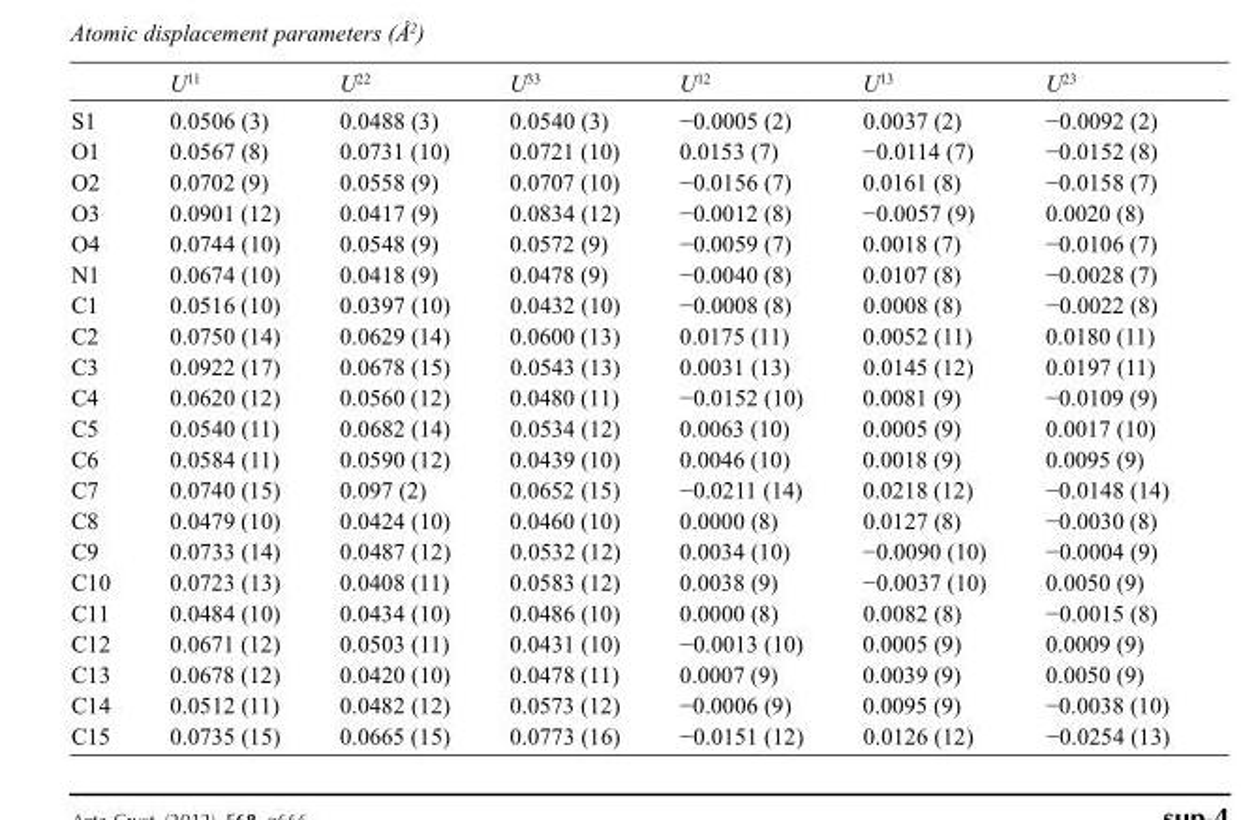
<table><thead><tr><td></td><td>U<sup>11</sup></td><td>U<sup>22</sup></td><td>U<sup>33</sup></td><td>U<sup>12</sup></td><td>U<sup>13</sup></td><td>U<sup>23</sup></td></tr></thead><tbody><tr><td>S1</td><td>0.0506 (3)</td><td>0.0488 (3)</td><td>0.0540 (3)</td><td>−0.0005 (2)</td><td>0.0037 (2)</td><td>−0.0092 (2)</td></tr><tr><td>O1</td><td>0.0567 (8)</td><td>0.0731 (10)</td><td>0.0721 (10)</td><td>0.0153 (7)</td><td>−0.0114 (7)</td><td>−0.0152 (8)</td></tr><tr><td>O2</td><td>0.0702 (9)</td><td>0.0558 (9)</td><td>0.0707 (10)</td><td>−0.0156 (7)</td><td>0.0161 (8)</td><td>−0.0158 (7)</td></tr><tr><td>O3</td><td>0.0901 (12)</td><td>0.0417 (9)</td><td>0.0834 (12)</td><td>−0.0012 (8)</td><td>−0.0057 (9)</td><td>0.0020 (8)</td></tr><tr><td>O4</td><td>0.0744 (10)</td><td>0.0548 (9)</td><td>0.0572 (9)</td><td>−0.0059 (7)</td><td>0.0018 (7)</td><td>−0.0106 (7)</td></tr><tr><td>N1</td><td>0.0674 (10)</td><td>0.0418 (9)</td><td>0.0478 (9)</td><td>−0.0040 (8)</td><td>0.0107 (8)</td><td>−0.0028 (7)</td></tr><tr><td>C1</td><td>0.0516 (10)</td><td>0.0397 (10)</td><td>0.0432 (10)</td><td>−0.0008 (8)</td><td>0.0008 (8)</td><td>−0.0022 (8)</td></tr><tr><td>C2</td><td>0.0750 (14)</td><td>0.0629 (14)</td><td>0.0600 (13)</td><td>0.0175 (11)</td><td>0.0052 (11)</td><td>0.0180 (11)</td></tr><tr><td>C3</td><td>0.0922 (17)</td><td>0.0678 (15)</td><td>0.0543 (13)</td><td>0.0031 (13)</td><td>0.0145 (12)</td><td>0.0197 (11)</td></tr><tr><td>C4</td><td>0.0620 (12)</td><td>0.0560 (12)</td><td>0.0480 (11)</td><td>−0.0152 (10)</td><td>0.0081 (9)</td><td>−0.0109 (9)</td></tr><tr><td>C5</td><td>0.0540 (11)</td><td>0.0682 (14)</td><td>0.0534 (12)</td><td>0.0063 (10)</td><td>0.0005 (9)</td><td>0.0017 (10)</td></tr><tr><td>C6</td><td>0.0584 (11)</td><td>0.0590 (12)</td><td>0.0439 (10)</td><td>0.0046 (10)</td><td>0.0018 (9)</td><td>0.0095 (9)</td></tr><tr><td>C7</td><td>0.0740 (15)</td><td>0.097 (2)</td><td>0.0652 (15)</td><td>−0.0211 (14)</td><td>0.0218 (12)</td><td>−0.0148 (14)</td></tr><tr><td>C8</td><td>0.0479 (10)</td><td>0.0424 (10)</td><td>0.0460 (10)</td><td>0.0000 (8)</td><td>0.0127 (8)</td><td>−0.0030 (8)</td></tr><tr><td>C9</td><td>0.0733 (14)</td><td>0.0487 (12)</td><td>0.0532 (12)</td><td>0.0034 (10)</td><td>−0.0090 (10)</td><td>−0.0004 (9)</td></tr><tr><td>C10</td><td>0.0723 (13)</td><td>0.0408 (11)</td><td>0.0583 (12)</td><td>0.0038 (9)</td><td>−0.0037 (10)</td><td>0.0050 (9)</td></tr><tr><td>C11</td><td>0.0484 (10)</td><td>0.0434 (10)</td><td>0.0486 (10)</td><td>0.0000 (8)</td><td>0.0082 (8)</td><td>−0.0015 (8)</td></tr><tr><td>C12</td><td>0.0671 (12)</td><td>0.0503 (11)</td><td>0.0431 (10)</td><td>−0.0013 (10)</td><td>0.0005 (9)</td><td>0.0009 (9)</td></tr><tr><td>C13</td><td>0.0678 (12)</td><td>0.0420 (10)</td><td>0.0478 (11)</td><td>0.0007 (9)</td><td>0.0039 (9)</td><td>0.0050 (9)</td></tr><tr><td>C14</td><td>0.0512 (11)</td><td>0.0482 (12)</td><td>0.0573 (12)</td><td>−0.0006 (9)</td><td>0.0095 (9)</td><td>−0.0038 (10)</td></tr><tr><td>C15</td><td>0.0735 (15)</td><td>0.0665 (15)</td><td>0.0773 (16)</td><td>−0.0151 (12)</td><td>0.0126 (12)</td><td>−0.0254 (13)</td></tr></tbody></table>